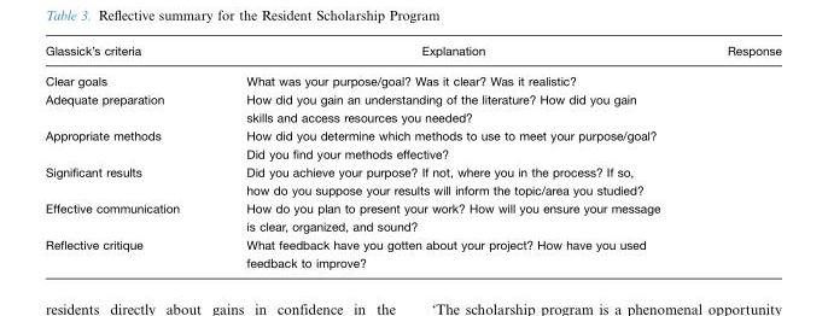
<table><thead><tr><td>Glassick’s criteria</td><td>Explanation</td><td>Response</td></tr></thead><tbody><tr><td>Clear goals</td><td>What was your purpose/goal? Was it clear? Was it realistic?</td><td></td></tr><tr><td>Adequate preparation</td><td>How did you gain an understanding of the literature? How did you gain skills and access resources you needed?</td><td></td></tr><tr><td>Appropriate methods</td><td>How did you determine which methods to use to meet your purpose/goal? Did you find your methods effective?</td><td></td></tr><tr><td>Significant results</td><td>Did you achieve your purpose? If not, where you in the process? If so, how do you suppose your results will inform the topic/area you studied?</td><td></td></tr><tr><td>Effective communication</td><td>How do you plan to present your work? How will you ensure your message is clear, organized, and sound?</td><td></td></tr><tr><td>Reflective critique</td><td>What feedback have you gotten about your project? How have you used feedback to improve?</td><td></td></tr></tbody></table>